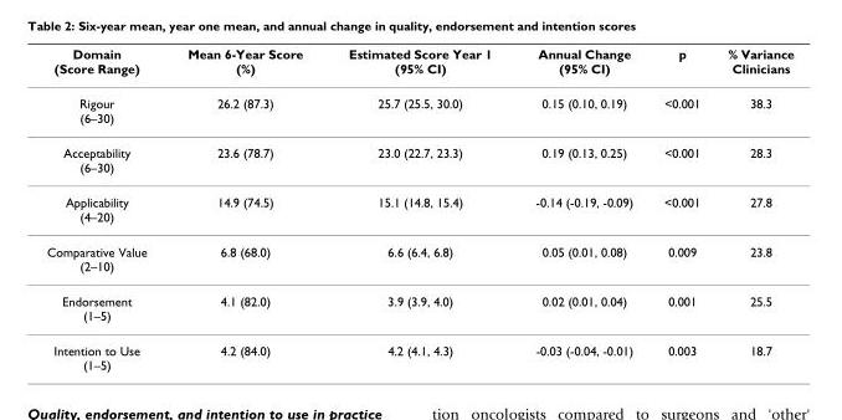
<table><thead><tr><td>Domain (Score Range)</td><td>Mean 6-Year Score (%)</td><td>Estimated Score Year 1 (95% CI)</td><td>Annual Change (95% CI)</td><td>p</td><td>% Variance Clinicians</td></tr></thead><tbody><tr><td>Rigour (6–30)</td><td>26.2 (87.3)</td><td>25.7 (25.5, 30.0)</td><td>0.15 (0.10, 0.19)</td><td>&lt;0.001</td><td>38.3</td></tr><tr><td>Acceptability (6–30)</td><td>23.6 (78.7)</td><td>23.0 (22.7, 23.3)</td><td>0.19 (0.13, 0.25)</td><td>&lt;0.001</td><td>28.3</td></tr><tr><td>Applicability (4–20)</td><td>14.9 (74.5)</td><td>15.1 (14.8, 15.4)</td><td>-0.14 (-0.19, -0.09)</td><td>&lt;0.001</td><td>27.8</td></tr><tr><td>Comparative Value (2–10)</td><td>6.8 (68.0)</td><td>6.6 (6.4, 6.8)</td><td>0.05 (0.01, 0.08)</td><td>0.009</td><td>23.8</td></tr><tr><td>Endorsement (1–5)</td><td>4.1 (82.0)</td><td>3.9 (3.9, 4.0)</td><td>0.02 (0.01, 0.04)</td><td>0.001</td><td>25.5</td></tr><tr><td>Intention to Use (1–5)</td><td>4.2 (84.0)</td><td>4.2 (4.1, 4.3)</td><td>-0.03 (-0.04, -0.01)</td><td>0.003</td><td>18.7</td></tr></tbody></table>